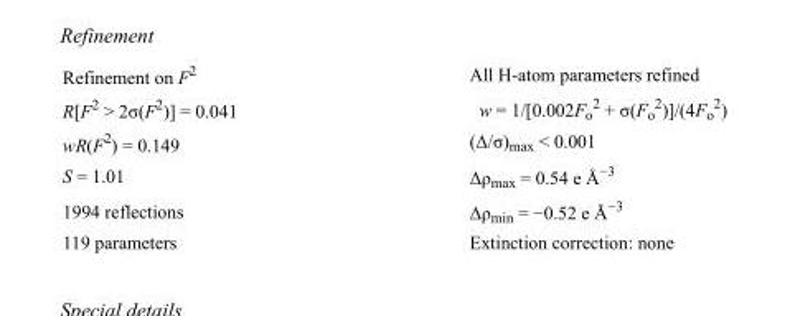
<table><tbody><tr><td>Refinement on F<sup>2</sup></td><td>All H-atom parameters refined</td></tr><tr><td>R[F<sup>2</sup> &gt; 2σ(F<sup>2</sup>)] = 0.041</td><td>w = 1/[0.002F<sub>o</sub> <sup>2</sup> + σ(F<sub>o</sub> <sup>2</sup>)]/(4F<sub>o</sub> <sup>2</sup>)</td></tr><tr><td>wR(F<sup>2</sup>) = 0.149</td><td>(Δ/σ)<sub>max</sub> &lt; 0.001</td></tr><tr><td>S = 1.01</td><td>Δρ<sub>max</sub> = 0.54 e Å<sup>−3</sup></td></tr><tr><td>1994 reflections</td><td>Δρ<sub>min</sub> = −0.52 e Å<sup>−3</sup></td></tr><tr><td>119 parameters</td><td>Extinction correction: none</td></tr></tbody></table>